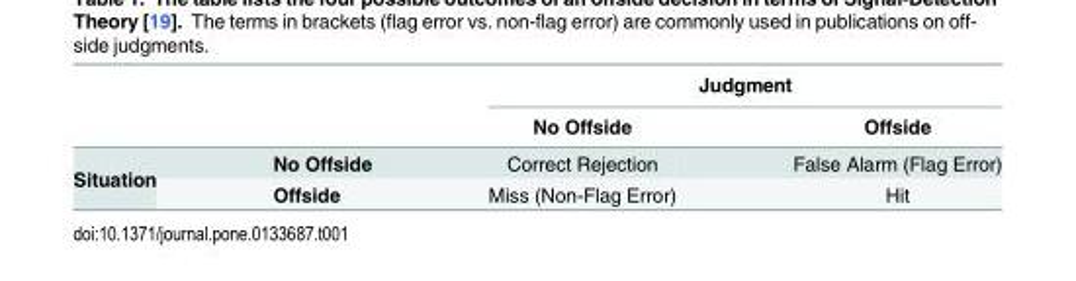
<table><thead><tr><td rowspan="2"></td><td rowspan="2"></td><td colspan="2">Judgment</td></tr><tr><td>No Offside</td><td>Offside</td></tr></thead><tbody><tr><td rowspan="2">Situation</td><td>No Offside</td><td>Correct Rejection</td><td>False Alarm (Flag Error)</td></tr><tr><td>Offside</td><td>Miss (Non-Flag Error)</td><td>Hit</td></tr></tbody></table>